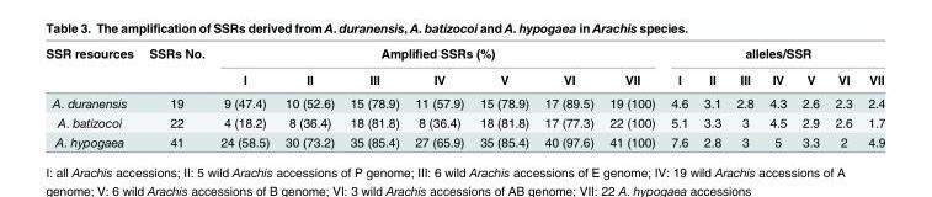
<table><thead><tr><td rowspan="2">SSR resources</td><td rowspan="2">SSRs No.</td><td colspan="7">Amplified SSRs (%)</td><td colspan="7">alleles/SSR</td></tr><tr><td>I</td><td>II</td><td>III</td><td>IV</td><td>V</td><td>VI</td><td>VII</td><td>I</td><td>II</td><td>III</td><td>IV</td><td>V</td><td>VI</td><td>VII</td></tr></thead><tbody><tr><td>A. duranensis</td><td>19</td><td>9 (47.4)</td><td>10 (52.6)</td><td>15 (78.9)</td><td>11 (57.9)</td><td>15 (78.9)</td><td>17 (89.5)</td><td>19 (100)</td><td>4.6</td><td>3.1</td><td>2.8</td><td>4.3</td><td>2.6</td><td>2.3</td><td>2.4</td></tr><tr><td>A. batizocoi</td><td>22</td><td>4 (18.2)</td><td>8 (36.4)</td><td>18 (81.8)</td><td>8 (36.4)</td><td>18 (81.8)</td><td>17 (77.3)</td><td>22 (100)</td><td>5.1</td><td>3.3</td><td>3</td><td>4.5</td><td>2.9</td><td>2.6</td><td>1.7</td></tr><tr><td>A. hypogaea</td><td>41</td><td>24 (58.5)</td><td>30 (73.2)</td><td>35 (85.4)</td><td>27 (65.9)</td><td>35 (85.4)</td><td>40 (97.6)</td><td>41 (100)</td><td>7.6</td><td>2.8</td><td>3</td><td>5</td><td>3.3</td><td>2</td><td>4.9</td></tr></tbody></table>